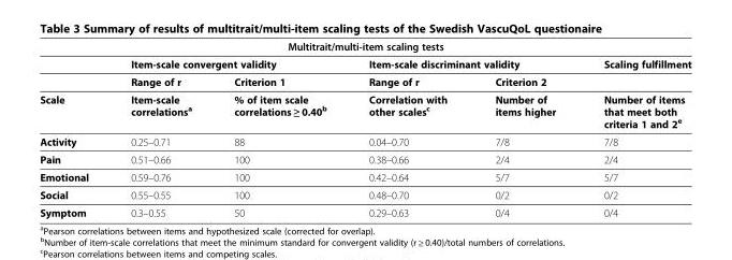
<table><thead><tr><td colspan="6">Multitrait/multi-item scaling tests</td></tr><tr><td rowspan="2"></td><td colspan="2">Item-scale convergent validity</td><td colspan="2">Item-scale discriminant validity</td><td rowspan="2">Scaling fulfillment</td></tr><tr><td>Range of r</td><td>Criterion 1</td><td>Range of r</td><td>Criterion 2</td></tr></thead><tbody><tr><td>Scale</td><td>Item-scale correlations<sup>a</sup></td><td>% of item scale correlations ≥ 0.40<sup>b</sup></td><td>Correlation with other scales<sup>c</sup></td><td>Number of items higher</td><td>Number of items that meet both criteria 1 and 2<sup>e</sup></td></tr><tr><td>Activity</td><td>0.25–0.71</td><td>88</td><td>0.04–0.70</td><td>7/8</td><td>7/8</td></tr><tr><td>Pain</td><td>0.51–0.66</td><td>100</td><td>0.38–0.66</td><td>2/4</td><td>2/4</td></tr><tr><td>Emotional</td><td>0.59–0.76</td><td>100</td><td>0.42–0.64</td><td>5/7</td><td>5/7</td></tr><tr><td>Social</td><td>0.55–0.55</td><td>100</td><td>0.48–0.70</td><td>0/2</td><td>0/2</td></tr><tr><td>Symptom</td><td>0.3–0.55</td><td>50</td><td>0.29–0.63</td><td>0/4</td><td>0/4</td></tr></tbody></table>